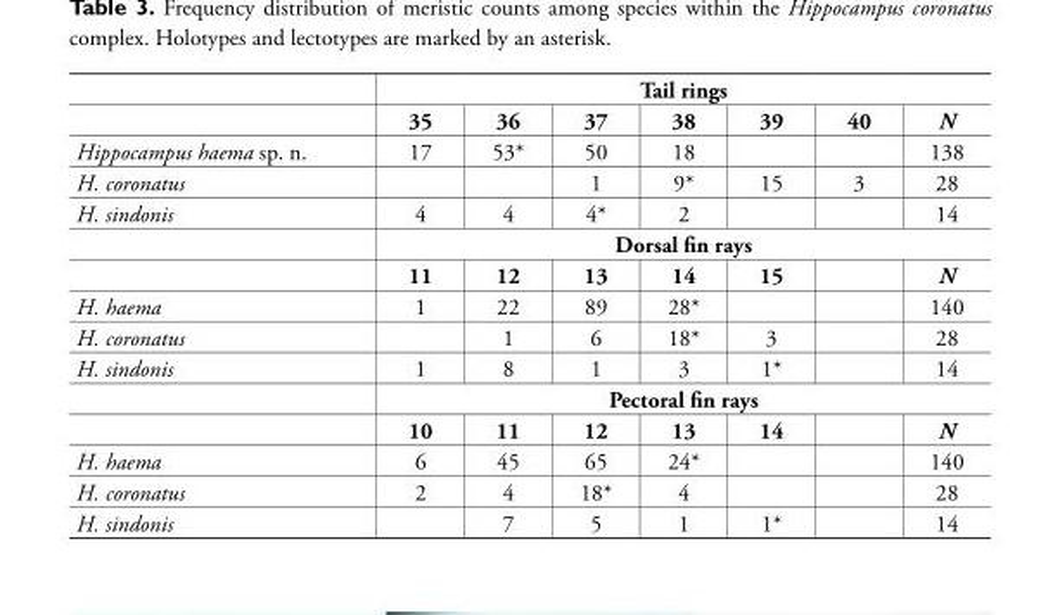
<table><thead><tr><td rowspan="2"></td><td colspan="7">Tail rings</td></tr><tr><td>35</td><td>36</td><td>37</td><td>38</td><td>39</td><td>40</td><td>N</td></tr></thead><tbody><tr><td>Hippocampus haema sp. n.</td><td>17</td><td>53*</td><td>50</td><td>18</td><td></td><td></td><td>138</td></tr><tr><td>H. coronatus</td><td></td><td></td><td>1</td><td>9*</td><td>15</td><td>3</td><td>28</td></tr><tr><td rowspan="3">H. sindonis</td><td>4</td><td>4</td><td>4*</td><td>2</td><td></td><td></td><td>14</td></tr><tr><td colspan="7">Dorsal fin rays</td></tr><tr><td>11</td><td>12</td><td>13</td><td>14</td><td>15</td><td></td><td>N</td></tr><tr><td>H. haema</td><td>1</td><td>22</td><td>89</td><td>28*</td><td></td><td></td><td>140</td></tr><tr><td>H. coronatus</td><td></td><td>1</td><td>6</td><td>18*</td><td>3</td><td></td><td>28</td></tr><tr><td rowspan="3">H. sindonis</td><td>1</td><td>8</td><td>1</td><td>3</td><td>1*</td><td></td><td>14</td></tr><tr><td colspan="7">Pectoral fin rays</td></tr><tr><td>10</td><td>11</td><td>12</td><td>13</td><td>14</td><td></td><td>N</td></tr><tr><td>H. haema</td><td>6</td><td>45</td><td>65</td><td>24*</td><td></td><td></td><td>140</td></tr><tr><td>H. coronatus</td><td>2</td><td>4</td><td>18*</td><td>4</td><td></td><td></td><td>28</td></tr><tr><td>H. sindonis</td><td></td><td>7</td><td>5</td><td>1</td><td>1*</td><td></td><td>14</td></tr></tbody></table>